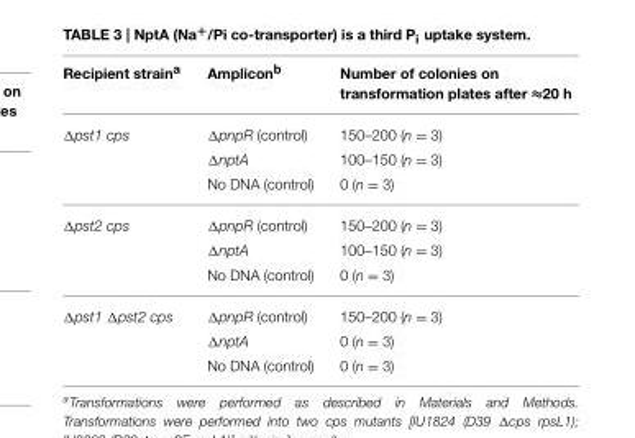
<table><thead><tr><td>Recipient strain<sup>a</sup></td><td>Amplicon<sup>b</sup></td><td>Number of colonies on transformation plates after ≈20 h</td></tr></thead><tbody><tr><td rowspan="3">Δpst1 cps</td><td>ΔpnpR (control)</td><td>150–200 (n = 3)</td></tr><tr><td>ΔnptA</td><td>100–150 (n = 3)</td></tr><tr><td>No DNA (control)</td><td>0 (n = 3)</td></tr><tr><td rowspan="3">Δpst2 cps</td><td>ΔpnpR (control)</td><td>150–200 (n = 3)</td></tr><tr><td>ΔnptA</td><td>100–150 (n = 3)</td></tr><tr><td>No DNA (control)</td><td>0 (n = 3)</td></tr><tr><td rowspan="3">Δpst1 Δpst2 cps</td><td>ΔpnpR (control)</td><td>150–200 (n = 3)</td></tr><tr><td>ΔnptA</td><td>0 (n = 3)</td></tr><tr><td>No DNA (control)</td><td>0 (n = 3)</td></tr></tbody></table>